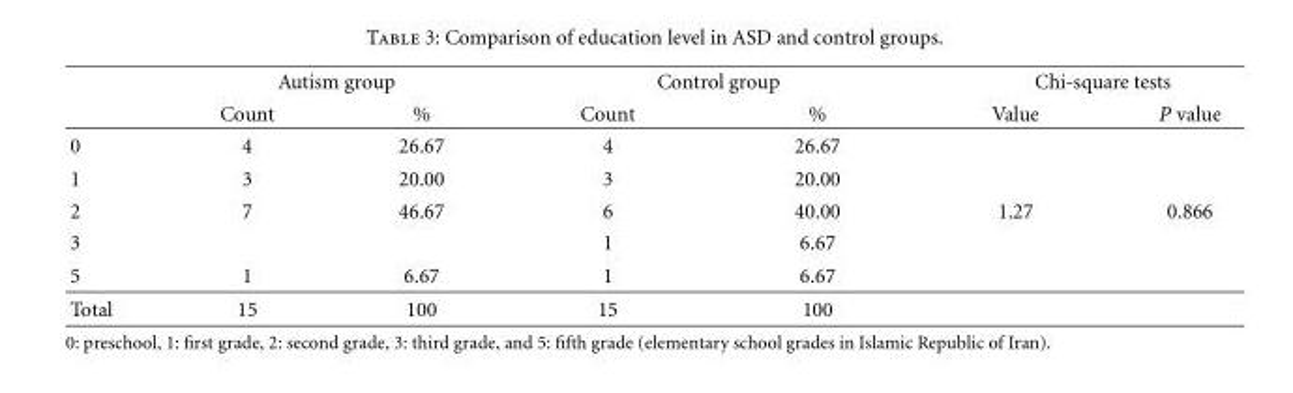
<table><thead><tr><td rowspan="2"></td><td colspan="2">Autism group</td><td colspan="2">Control group</td><td colspan="2">Chi-square tests</td></tr><tr><td>Count</td><td>%</td><td>Count</td><td>%</td><td>Value</td><td>P value</td></tr></thead><tbody><tr><td>0</td><td>4</td><td>26.67</td><td>4</td><td>26.67</td><td></td><td></td></tr><tr><td>1</td><td>3</td><td>20.00</td><td>3</td><td>20.00</td><td></td><td></td></tr><tr><td>2</td><td>7</td><td>46.67</td><td>6</td><td>40.00</td><td>1.27</td><td>0.866</td></tr><tr><td>3</td><td></td><td></td><td>1</td><td>6.67</td><td></td><td></td></tr><tr><td>5</td><td>1</td><td>6.67</td><td>1</td><td>6.67</td><td></td><td></td></tr><tr><td>Total</td><td>15</td><td>100</td><td>15</td><td>100</td><td></td><td></td></tr></tbody></table>